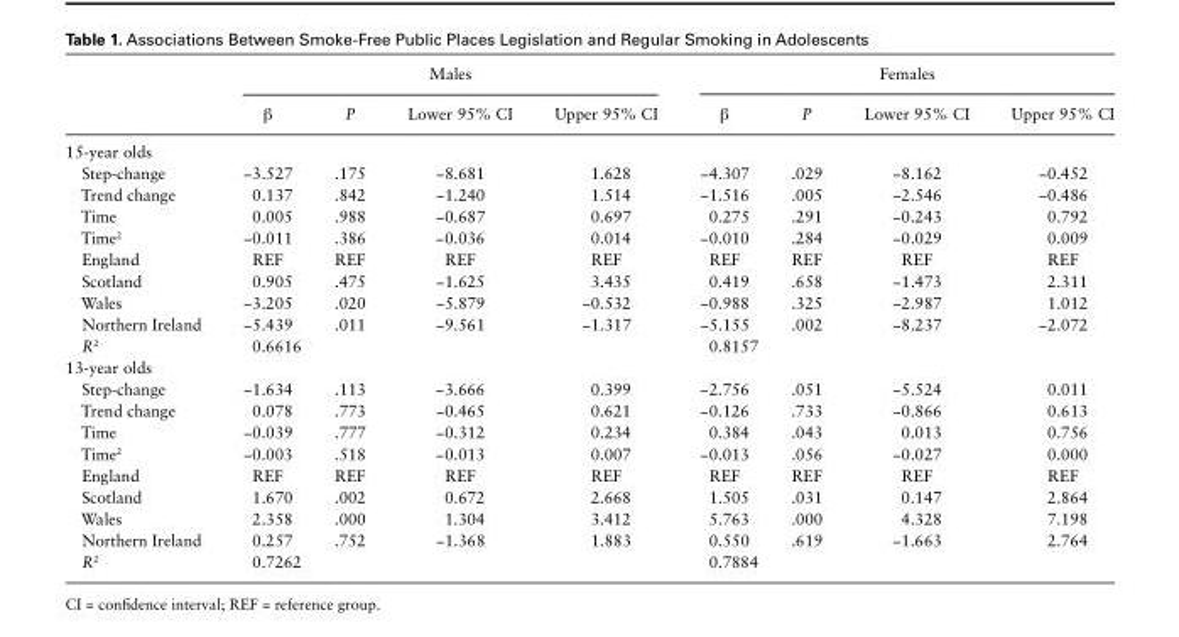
<table><thead><tr><td rowspan="2"></td><td colspan="4">Males</td><td colspan="4">Females</td></tr><tr><td>β</td><td>P</td><td>Lower 95% CI</td><td>Upper 95% CI</td><td>β</td><td>P</td><td>Lower 95% CI</td><td>Upper 95% CI</td></tr></thead><tbody><tr><td colspan="9">15-year olds</td></tr><tr><td>Step-change</td><td>−3.527</td><td>.175</td><td>−8.681</td><td>1.628</td><td>−4.307</td><td>.029</td><td>−8.162</td><td>−0.452</td></tr><tr><td>Trend change</td><td>0.137</td><td>.842</td><td>−1.240</td><td>1.514</td><td>−1.516</td><td>.005</td><td>−2.546</td><td>−0.486</td></tr><tr><td>Time</td><td>0.005</td><td>.988</td><td>−0.687</td><td>0.697</td><td>0.275</td><td>.291</td><td>−0.243</td><td>0.792</td></tr><tr><td>Time<sup>2</sup></td><td>−0.011</td><td>.386</td><td>−0.036</td><td>0.014</td><td>−0.010</td><td>.284</td><td>−0.029</td><td>0.009</td></tr><tr><td>England</td><td>REF</td><td>REF</td><td>REF</td><td>REF</td><td>REF</td><td>REF</td><td>REF</td><td>REF</td></tr><tr><td>Scotland</td><td>0.905</td><td>.475</td><td>−1.625</td><td>3.435</td><td>0.419</td><td>.658</td><td>−1.473</td><td>2.311</td></tr><tr><td>Wales</td><td>−3.205</td><td>.020</td><td>−5.879</td><td>−0.532</td><td>−0.988</td><td>.325</td><td>−2.987</td><td>1.012</td></tr><tr><td>Northern Ireland</td><td>−5.439</td><td>.011</td><td>−9.561</td><td>−1.317</td><td>−5.155</td><td>.002</td><td>−8.237</td><td>−2.072</td></tr><tr><td>R<sup>2</sup></td><td colspan="4">0.6616</td><td colspan="4">0.8157</td></tr><tr><td colspan="9">13-year olds</td></tr><tr><td>Step-change</td><td>−1.634</td><td>.113</td><td>−3.666</td><td>0.399</td><td>−2.756</td><td>.051</td><td>−5.524</td><td>0.011</td></tr><tr><td>Trend change</td><td>0.078</td><td>.773</td><td>−0.465</td><td>0.621</td><td>−0.126</td><td>.733</td><td>−0.866</td><td>0.613</td></tr><tr><td>Time</td><td>−0.039</td><td>.777</td><td>−0.312</td><td>0.234</td><td>0.384</td><td>.043</td><td>0.013</td><td>0.756</td></tr><tr><td>Time<sup>2</sup></td><td>−0.003</td><td>.518</td><td>−0.013</td><td>0.007</td><td>−0.013</td><td>.056</td><td>−0.027</td><td>0.000</td></tr><tr><td>England</td><td>REF</td><td>REF</td><td>REF</td><td>REF</td><td>REF</td><td>REF</td><td>REF</td><td>REF</td></tr><tr><td>Scotland</td><td>1.670</td><td>.002</td><td>0.672</td><td>2.668</td><td>1.505</td><td>.031</td><td>0.147</td><td>2.864</td></tr><tr><td>Wales</td><td>2.358</td><td>.000</td><td>1.304</td><td>3.412</td><td>5.763</td><td>.000</td><td>4.328</td><td>7.198</td></tr><tr><td>Northern Ireland</td><td>0.257</td><td>.752</td><td>−1.368</td><td>1.883</td><td>0.550</td><td>.619</td><td>−1.663</td><td>2.764</td></tr><tr><td>R<sup>2</sup></td><td colspan="4">0.7262</td><td colspan="4">0.7884</td></tr></tbody></table>